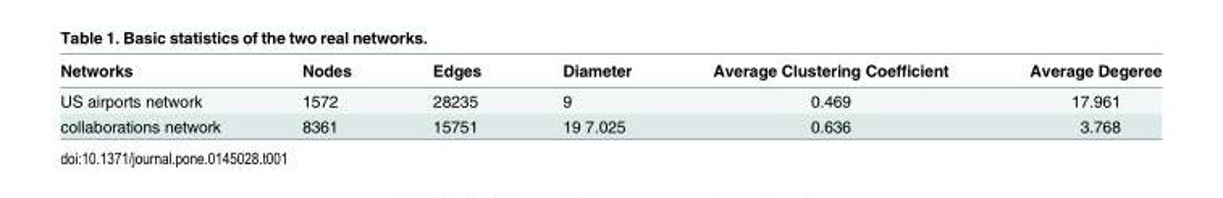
<table><thead><tr><td>Networks</td><td>Nodes</td><td>Edges</td><td>Diameter</td><td>Average Clustering Coefficient</td><td>Average Degeree</td></tr></thead><tbody><tr><td>US airports network</td><td>1572</td><td>28235</td><td>9</td><td>0.469</td><td>17.961</td></tr><tr><td>collaborations network</td><td>8361</td><td>15751</td><td>19 7.025</td><td>0.636</td><td>3.768</td></tr></tbody></table>